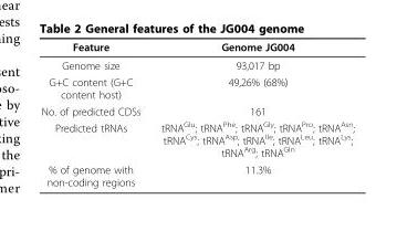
<table><thead><tr><td>Feature</td><td>Genome JG004</td></tr></thead><tbody><tr><td>Genome size</td><td>93,017 bp</td></tr><tr><td>G+C content (G+C content host)</td><td>49,26% (68%)</td></tr><tr><td>No. of predicted CDSs</td><td>161</td></tr><tr><td>Predicted tRNAs</td><td>tRNA<sup>Glu</sup>; tRNA<sup>Phe</sup>; tRNA<sup>Gly</sup>; tRNA<sup>Pro</sup>; tRNA<sup>Asn</sup>; tRNA<sup>Cys</sup>; tRNA<sup>Asp</sup>; tRNA<sup>Ile</sup>; tRNA<sup>Leu</sup>; tRNA<sup>Lys</sup>; tRNA<sup>Arg</sup>; tRNA<sup>Gln</sup></td></tr><tr><td>% of genome with non-coding regions</td><td>11.3%</td></tr></tbody></table>